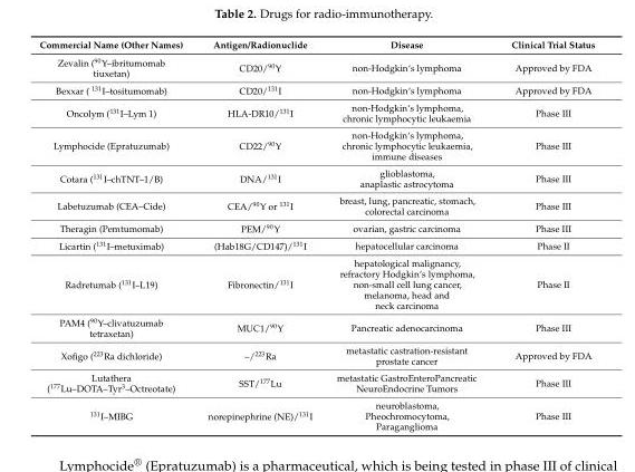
<table><thead><tr><td>Commercial Name (Other Names)</td><td>Antigen/Radionuclide</td><td>Disease</td><td>Clinical Trial Status</td></tr></thead><tbody><tr><td>Zevalin (<sup>90</sup>Y–ibritumomab tiuxetan)</td><td>CD20/<sup>90</sup>Y</td><td>non-Hodgkin‘s lymphoma</td><td>Approved by FDA</td></tr><tr><td>Bexxar ( <sup>131</sup>I–tositumomab)</td><td>CD20/<sup>131</sup>I</td><td>non-Hodgkin‘s lymphoma</td><td>Approved by FDA</td></tr><tr><td>Oncolym (<sup>131</sup>I–Lym 1)</td><td>HLA-DR10/<sup>131</sup>I</td><td>non-Hodgkin‘s lymphoma, chronic lymphocytic leukaemia</td><td>Phase III</td></tr><tr><td>Lymphocide (Epratuzumab)</td><td>CD22/<sup>90</sup>Y</td><td>non-Hodgkin‘s lymphoma, chronic lymphocytic leukaemia, immune diseases</td><td>Phase III</td></tr><tr><td>Cotara (<sup>131</sup>I–chTNT–1/B)</td><td>DNA/<sup>131</sup>I</td><td>glioblastoma, anaplastic astrocytoma</td><td>Phase III</td></tr><tr><td>Labetuzumab (CEA–Cide)</td><td>CEA/<sup>90</sup>Y or <sup>131</sup>I</td><td>breast, lung, pancreatic, stomach, colorectal carcinoma</td><td>Phase III</td></tr><tr><td>Theragin (Pemtumomab)</td><td>PEM/<sup>90</sup>Y</td><td>ovarian, gastric carcinoma</td><td>Phase III</td></tr><tr><td>Licartin (<sup>131</sup>I–metuximab)</td><td>(Hab18G/CD147)/<sup>131</sup>I</td><td>hepatocellular carcinoma</td><td>Phase II</td></tr><tr><td>Radretumab (<sup>131</sup>I–L19)</td><td>Fibronectin/<sup>131</sup>I</td><td>hepatological malignancy, refractory Hodgkin‘s lymphoma, non-small cell lung cancer, melanoma, head and neck carcinoma</td><td>Phase II</td></tr><tr><td>PAM4 (<sup>90</sup>Y–clivatuzumab tetraxetan)</td><td>MUC1/<sup>90</sup>Y</td><td>Pancreatic adenocarcinoma</td><td>Phase III</td></tr><tr><td>Xofigo (<sup>223</sup>Ra dichloride)</td><td>–/<sup>223</sup>Ra</td><td>metastatic castration-resistant prostate cancer</td><td>Approved by FDA</td></tr><tr><td>Lutathera (<sup>177</sup>Lu–DOTA–Tyr<sup>3</sup>–Octreotate)</td><td>SST/<sup>177</sup>Lu</td><td>metastatic GastroEnteroPancreatic NeuroEndocrine Tumors</td><td>Phase III</td></tr><tr><td><sup>131</sup>I–MIBG</td><td>norepinephrine (NE)/<sup>131</sup>I</td><td>neuroblastoma, Pheochromocytoma, Paraganglioma</td><td>Phase III</td></tr></tbody></table>